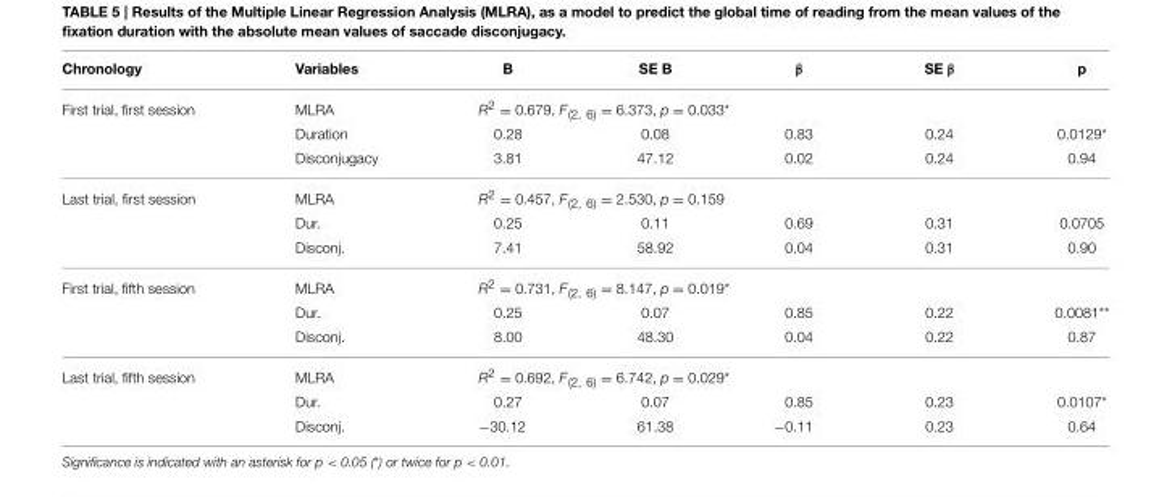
<table><thead><tr><td>Chronology</td><td>Variables</td><td>B</td><td>SE B</td><td>β</td><td>SE β</td><td>p</td></tr></thead><tbody><tr><td rowspan="3">First trial, first session</td><td>MLRA</td><td colspan="5">R<sup>2</sup> = 0.679, F<sub>(2, 6)</sub> = 6.373, p = 0.033*</td></tr><tr><td>Duration</td><td>0.28</td><td>0.08</td><td>0.83</td><td>0.24</td><td>0.0129*</td></tr><tr><td>Disconjugacy</td><td>3.81</td><td>47.12</td><td>0.02</td><td>0.24</td><td>0.94</td></tr><tr><td rowspan="3">Last trial, first session</td><td>MLRA</td><td colspan="5">R<sup>2</sup> = 0.457, F<sub>(2, 6)</sub> = 2.530, p = 0.159</td></tr><tr><td>Dur.</td><td>0.25</td><td>0.11</td><td>0.69</td><td>0.31</td><td>0.0705</td></tr><tr><td>Disconj.</td><td>7.41</td><td>58.92</td><td>0.04</td><td>0.31</td><td>0.90</td></tr><tr><td rowspan="3">First trial, fifth session</td><td>MLRA</td><td colspan="5">R<sup>2</sup> = 0.731, F<sub>(2, 6)</sub> = 8.147, p = 0.019*</td></tr><tr><td>Dur.</td><td>0.25</td><td>0.07</td><td>0.85</td><td>0.22</td><td>0.0081**</td></tr><tr><td>Disconj.</td><td>8.00</td><td>48.30</td><td>0.04</td><td>0.22</td><td>0.87</td></tr><tr><td rowspan="3">Last trial, fifth session</td><td>MLRA</td><td colspan="5">R<sup>2</sup> = 0.692, F<sub>(2, 6)</sub> = 6.742, p = 0.029*</td></tr><tr><td>Dur.</td><td>0.27</td><td>0.07</td><td>0.85</td><td>0.23</td><td>0.0107*</td></tr><tr><td>Disconj.</td><td>−30.12</td><td>61.38</td><td>−0.11</td><td>0.23</td><td>0.64</td></tr></tbody></table>